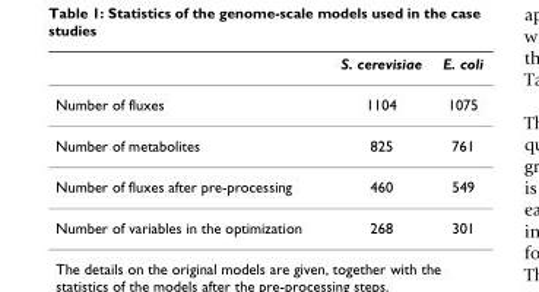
<table><thead><tr><td></td><td>S. cerevisiae</td><td>E. coli</td></tr></thead><tbody><tr><td>Number of fluxes</td><td>1104</td><td>1075</td></tr><tr><td>Number of metabolites</td><td>825</td><td>761</td></tr><tr><td>Number of fluxes after pre-processing</td><td>460</td><td>549</td></tr><tr><td>Number of variables in the optimization</td><td>268</td><td>301</td></tr></tbody></table>